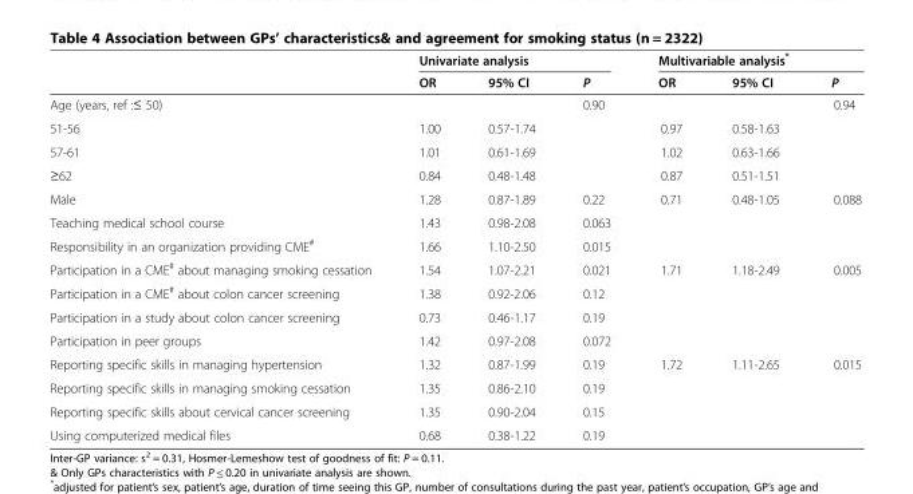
<table><thead><tr><td rowspan="2"></td><td colspan="3">Univariate analysis</td><td colspan="3">Multivariable analysis*</td></tr><tr><td>OR</td><td>95% CI</td><td>P</td><td>OR</td><td>95% CI</td><td>P</td></tr></thead><tbody><tr><td>Age (years, ref :≤ 50)</td><td></td><td></td><td>0.90</td><td></td><td></td><td>0.94</td></tr><tr><td>51-56</td><td>1.00</td><td>0.57-1.74</td><td></td><td>0.97</td><td>0.58-1.63</td><td></td></tr><tr><td>57-61</td><td>1.01</td><td>0.61-1.69</td><td></td><td>1.02</td><td>0.63-1.66</td><td></td></tr><tr><td>≥62</td><td>0.84</td><td>0.48-1.48</td><td></td><td>0.87</td><td>0.51-1.51</td><td></td></tr><tr><td>Male</td><td>1.28</td><td>0.87-1.89</td><td>0.22</td><td>0.71</td><td>0.48-1.05</td><td>0.088</td></tr><tr><td>Teaching medical school course</td><td>1.43</td><td>0.98-2.08</td><td>0.063</td><td></td><td></td><td></td></tr><tr><td>Responsibility in an organization providing CME<sup>#</sup></td><td>1.66</td><td>1.10-2.50</td><td>0.015</td><td></td><td></td><td></td></tr><tr><td>Participation in a CME<sup>#</sup> about managing smoking cessation</td><td>1.54</td><td>1.07-2.21</td><td>0.021</td><td>1.71</td><td>1.18-2.49</td><td>0.005</td></tr><tr><td>Participation in a CME<sup>#</sup> about colon cancer screening</td><td>1.38</td><td>0.92-2.06</td><td>0.12</td><td></td><td></td><td></td></tr><tr><td>Participation in a study about colon cancer screening</td><td>0.73</td><td>0.46-1.17</td><td>0.19</td><td></td><td></td><td></td></tr><tr><td>Participation in peer groups</td><td>1.42</td><td>0.97-2.08</td><td>0.072</td><td></td><td></td><td></td></tr><tr><td>Reporting specific skills in managing hypertension</td><td>1.32</td><td>0.87-1.99</td><td>0.19</td><td>1.72</td><td>1.11-2.65</td><td>0.015</td></tr><tr><td>Reporting specific skills in managing smoking cessation</td><td>1.35</td><td>0.86-2.10</td><td>0.19</td><td></td><td></td><td></td></tr><tr><td>Reporting specific skills about cervical cancer screening</td><td>1.35</td><td>0.90-2.04</td><td>0.15</td><td></td><td></td><td></td></tr><tr><td>Using computerized medical files</td><td>0.68</td><td>0.38-1.22</td><td>0.19</td><td></td><td></td><td></td></tr></tbody></table>